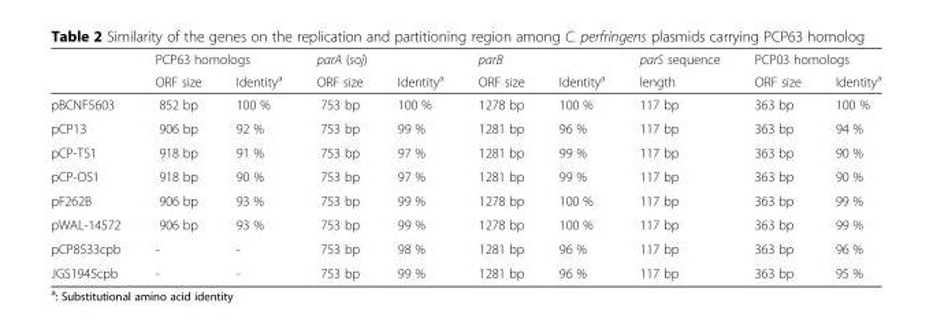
<table><thead><tr><td rowspan="2"></td><td colspan="2">PCP63 homologs</td><td colspan="2">parA (soj)</td><td colspan="2">parB</td><td rowspan="2">parS sequence length</td><td colspan="2">PCP03 homologs</td></tr><tr><td>ORF size</td><td>Identity<sup>a</sup></td><td>ORF size</td><td>Identity<sup>a</sup></td><td>ORF size</td><td>Identity<sup>a</sup></td><td>ORF size</td><td>Identity<sup>a</sup></td></tr></thead><tbody><tr><td>pBCNF5603</td><td>852 bp</td><td>100 %</td><td>753 bp</td><td>100 %</td><td>1278 bp</td><td>100 %</td><td>117 bp</td><td>363 bp</td><td>100 %</td></tr><tr><td>pCP13</td><td>906 bp</td><td>92 %</td><td>753 bp</td><td>99 %</td><td>1281 bp</td><td>96 %</td><td>117 bp</td><td>363 bp</td><td>94 %</td></tr><tr><td>pCP-TS1</td><td>918 bp</td><td>91 %</td><td>753 bp</td><td>97 %</td><td>1281 bp</td><td>99 %</td><td>117 bp</td><td>363 bp</td><td>90 %</td></tr><tr><td>pCP-OS1</td><td>918 bp</td><td>90 %</td><td>753 bp</td><td>97 %</td><td>1281 bp</td><td>99 %</td><td>117 bp</td><td>363 bp</td><td>90 %</td></tr><tr><td>pF262B</td><td>906 bp</td><td>93 %</td><td>753 bp</td><td>99 %</td><td>1278 bp</td><td>100 %</td><td>117 bp</td><td>363 bp</td><td>99 %</td></tr><tr><td>pWAL-14572</td><td>906 bp</td><td>93 %</td><td>753 bp</td><td>99 %</td><td>1278 bp</td><td>100 %</td><td>117 bp</td><td>363 bp</td><td>99 %</td></tr><tr><td>pCP8533cpb</td><td>-</td><td>-</td><td>753 bp</td><td>98 %</td><td>1281 bp</td><td>96 %</td><td>117 bp</td><td>363 bp</td><td>96 %</td></tr><tr><td>JGS1945cpb</td><td>-</td><td>-</td><td>753 bp</td><td>99 %</td><td>1281 bp</td><td>96 %</td><td>117 bp</td><td>363 bp</td><td>95 %</td></tr></tbody></table>